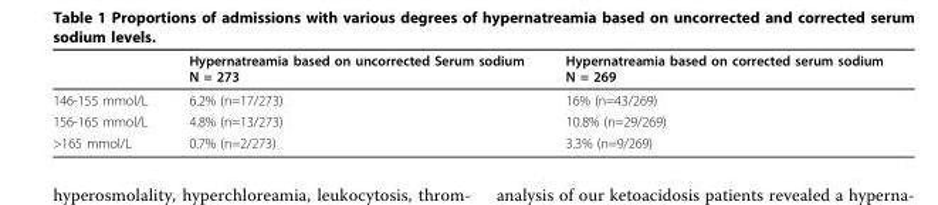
<table><thead><tr><td></td><td>Hypernatreamia based on uncorrected Serum sodium N = 273</td><td>Hypernatreamia based on corrected serum sodium N = 269</td></tr></thead><tbody><tr><td>146-155 mmol/L</td><td>6.2% (n=17/273)</td><td>16% (n=43/269)</td></tr><tr><td>156-165 mmol/L</td><td>4.8% (n=13/273)</td><td>10.8% (n=29/269)</td></tr><tr><td>&gt;165 mmol/L</td><td>0.7% (n=2/273)</td><td>3.3% (n=9/269)</td></tr></tbody></table>